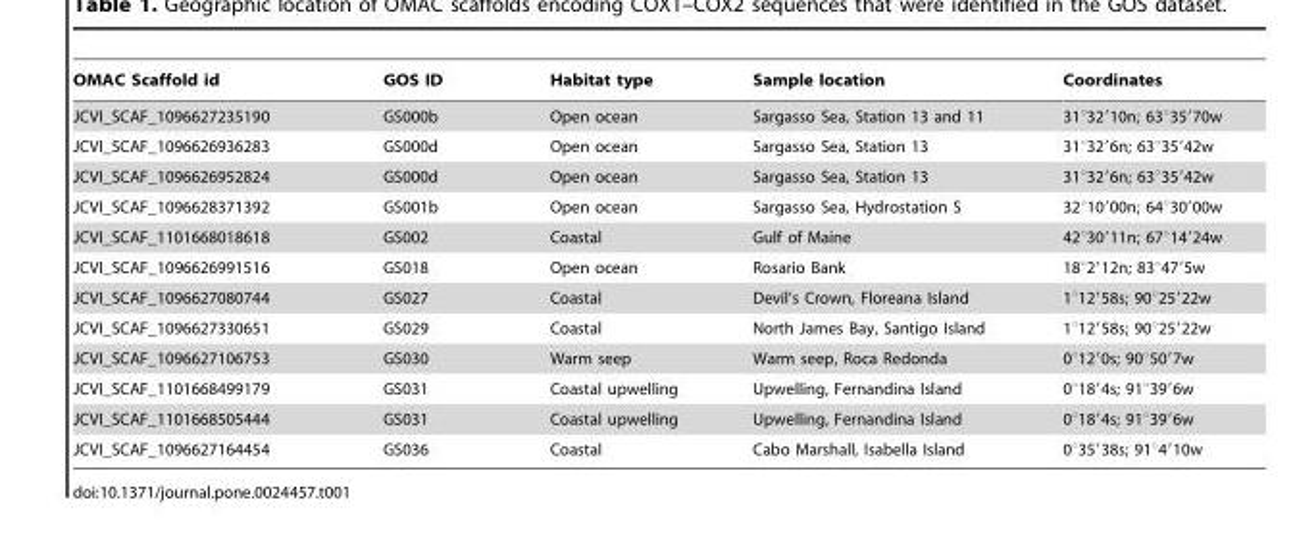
<table><thead><tr><td>OMAC Scaffold id</td><td>GOS ID</td><td>Habitat type</td><td>Sample location</td><td>Coordinates</td></tr></thead><tbody><tr><td>JCVI_SCAF_1096627235190</td><td>GS000b</td><td>Open ocean</td><td>Sargasso Sea, Station 13 and 11</td><td>31°32′10n; 63°35′70w</td></tr><tr><td>JCVI_SCAF_1096626936283</td><td>GS000d</td><td>Open ocean</td><td>Sargasso Sea, Station 13</td><td>31°32′6n; 63°35′42w</td></tr><tr><td>JCVI_SCAF_1096626952824</td><td>GS000d</td><td>Open ocean</td><td>Sargasso Sea, Station 13</td><td>31°32′6n; 63°35′42w</td></tr><tr><td>JCVI_SCAF_1096628371392</td><td>GS001b</td><td>Open ocean</td><td>Sargasso Sea, Hydrostation S</td><td>32°10′00n; 64°30′00w</td></tr><tr><td>JCVI_SCAF_1101668018618</td><td>GS002</td><td>Coastal</td><td>Gulf of Maine</td><td>42°30′11n; 67°14′24w</td></tr><tr><td>JCVI_SCAF_1096626991516</td><td>GS018</td><td>Open ocean</td><td>Rosario Bank</td><td>18°2′12n; 83°47′5w</td></tr><tr><td>JCVI_SCAF_1096627080744</td><td>GS027</td><td>Coastal</td><td>Devil’s Crown, Floreana Island</td><td>1°12′58s; 90°25′22w</td></tr><tr><td>JCVI_SCAF_1096627330651</td><td>GS029</td><td>Coastal</td><td>North James Bay, Santigo Island</td><td>1°12′58s; 90°25′22w</td></tr><tr><td>JCVI_SCAF_1096627106753</td><td>GS030</td><td>Warm seep</td><td>Warm seep, Roca Redonda</td><td>0°12′0s; 90°50′7w</td></tr><tr><td>JCVI_SCAF_1101668499179</td><td>GS031</td><td>Coastal upwelling</td><td>Upwelling, Fernandina Island</td><td>0°18′4s; 91°39′6w</td></tr><tr><td>JCVI_SCAF_1101668505444</td><td>GS031</td><td>Coastal upwelling</td><td>Upwelling, Fernandina Island</td><td>0°18′4s; 91°39′6w</td></tr><tr><td>JCVI_SCAF_1096627164454</td><td>GS036</td><td>Coastal</td><td>Cabo Marshall, Isabella Island</td><td>0°35′38s; 91°4′10w</td></tr></tbody></table>